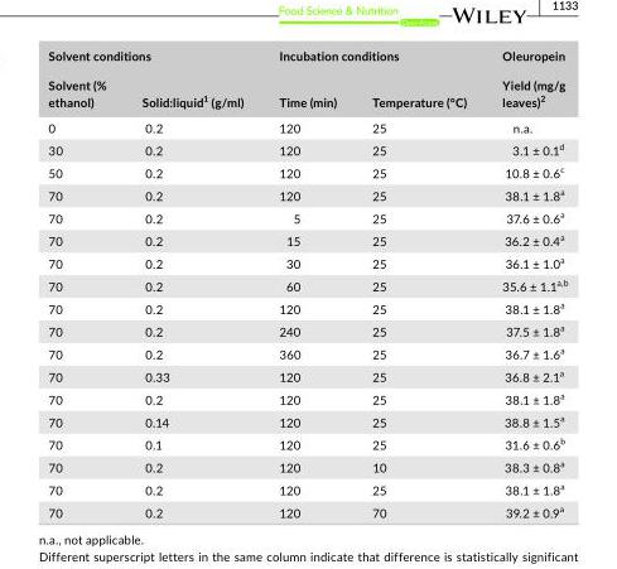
<table><thead><tr><td colspan="2">Solvent conditions</td><td colspan="2">Incubation conditions</td><td rowspan="2">Oleuropein Yield (mg/g leaves)2</td></tr><tr><td>Solvent (% ethanol)</td><td>Solid:liquid1 (g/ml)</td><td>Time (min)</td><td>Temperature (°C)</td></tr></thead><tbody><tr><td>0</td><td>0.2</td><td>120</td><td>25</td><td>n.a.</td></tr><tr><td>30</td><td>0.2</td><td>120</td><td>25</td><td>3.1 ± 0.1<sup>d</sup></td></tr><tr><td>50</td><td>0.2</td><td>120</td><td>25</td><td>10.8 ± 0.6<sup>c</sup></td></tr><tr><td>70</td><td>0.2</td><td>120</td><td>25</td><td>38.1 ± 1.8<sup>a</sup></td></tr><tr><td>70</td><td>0.2</td><td>5</td><td>25</td><td>37.6 ± 0.6<sup>a</sup></td></tr><tr><td>70</td><td>0.2</td><td>15</td><td>25</td><td>36.2 ± 0.4<sup>a</sup></td></tr><tr><td>70</td><td>0.2</td><td>30</td><td>25</td><td>36.1 ± 1.0<sup>a</sup></td></tr><tr><td>70</td><td>0.2</td><td>60</td><td>25</td><td>35.6 ± 1.1<sup>a,b</sup></td></tr><tr><td>70</td><td>0.2</td><td>120</td><td>25</td><td>38.1 ± 1.8<sup>a</sup></td></tr><tr><td>70</td><td>0.2</td><td>240</td><td>25</td><td>37.5 ± 1.8<sup>a</sup></td></tr><tr><td>70</td><td>0.2</td><td>360</td><td>25</td><td>36.7 ± 1.6<sup>a</sup></td></tr><tr><td>70</td><td>0.33</td><td>120</td><td>25</td><td>36.8 ± 2.1<sup>a</sup></td></tr><tr><td>70</td><td>0.2</td><td>120</td><td>25</td><td>38.1 ± 1.8<sup>a</sup></td></tr><tr><td>70</td><td>0.14</td><td>120</td><td>25</td><td>38.8 ± 1.5<sup>a</sup></td></tr><tr><td>70</td><td>0.1</td><td>120</td><td>25</td><td>31.6 ± 0.6<sup>b</sup></td></tr><tr><td>70</td><td>0.2</td><td>120</td><td>10</td><td>38.3 ± 0.8<sup>a</sup></td></tr><tr><td>70</td><td>0.2</td><td>120</td><td>25</td><td>38.1 ± 1.8<sup>a</sup></td></tr><tr><td>70</td><td>0.2</td><td>120</td><td>70</td><td>39.2 ± 0.9<sup>a</sup></td></tr></tbody></table>